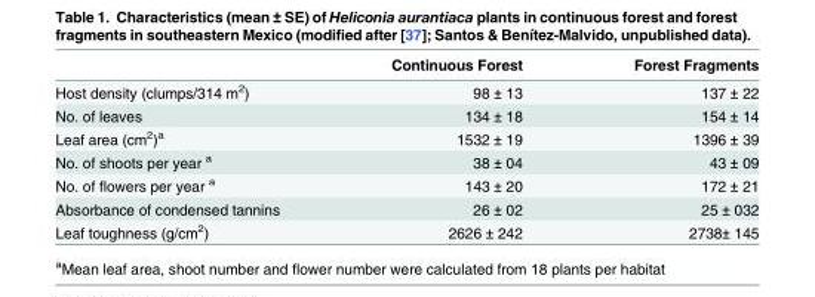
<table><thead><tr><td></td><td>Continuous Forest</td><td>Forest Fragments</td></tr></thead><tbody><tr><td>Host density (clumps/314 m<sup>2</sup>)</td><td>98 ± 13</td><td>137 ± 22</td></tr><tr><td>No. of leaves</td><td>134 ± 18</td><td>154 ± 14</td></tr><tr><td>Leaf area (cm<sup>2</sup>)<sup>a</sup></td><td>1532 ± 19</td><td>1396 ± 39</td></tr><tr><td>No. of shoots per year <sup>a</sup></td><td>38 ± 04</td><td>43 ± 09</td></tr><tr><td>No. of flowers per year <sup>a</sup></td><td>143 ± 20</td><td>172 ± 21</td></tr><tr><td>Absorbance of condensed tannins</td><td>26 ± 02</td><td>25 ± 032</td></tr><tr><td>Leaf toughness (g/cm<sup>2</sup>)</td><td>2626 ± 242</td><td>2738± 145</td></tr></tbody></table>